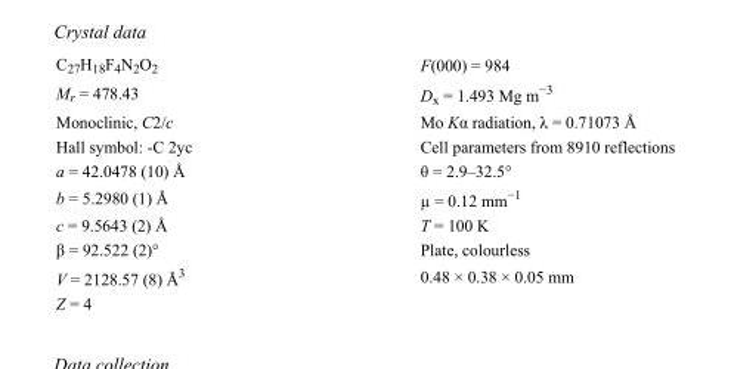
<table><tbody><tr><td>C<sub>27</sub>H<sub>18</sub>F<sub>4</sub>N<sub>2</sub>O<sub>2</sub></td><td>F(000) = 984</td></tr><tr><td>M<sub>r</sub> = 478.43</td><td>D<sub>x</sub> = 1.493 Mg m<sup>−3</sup></td></tr><tr><td>Monoclinic, C2/c</td><td>Mo Kα radiation, λ = 0.71073 Å</td></tr><tr><td>Hall symbol: -C 2yc</td><td>Cell parameters from 8910 reflections</td></tr><tr><td>a = 42.0478 (10) Å</td><td>θ = 2.9–32.5°</td></tr><tr><td>b = 5.2980 (1) Å</td><td>µ = 0.12 mm<sup>−1</sup></td></tr><tr><td>c = 9.5643 (2) Å</td><td>T = 100 K</td></tr><tr><td>β = 92.522 (2)°</td><td>Plate, colourless</td></tr><tr><td>V = 2128.57 (8) Å<sup>3</sup></td><td>0.48 × 0.38 × 0.05 mm</td></tr><tr><td>Z = 4</td><td></td></tr></tbody></table>